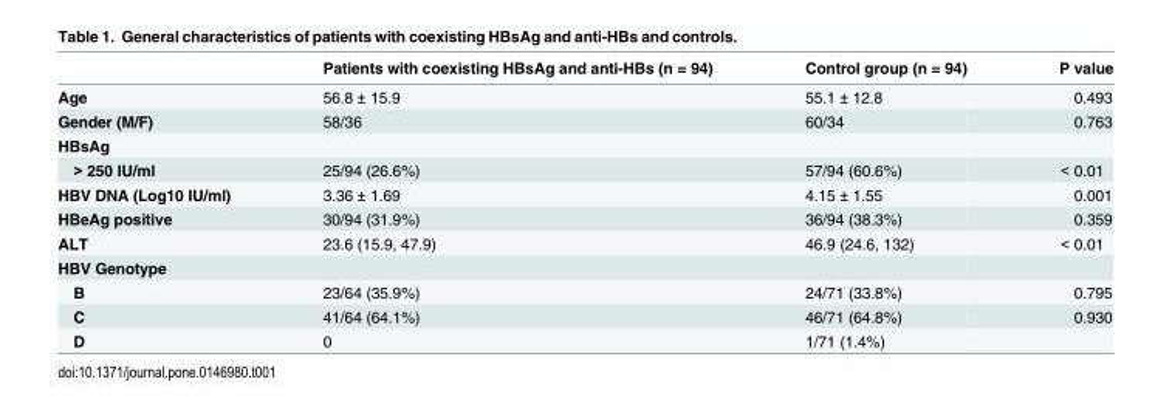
<table><thead><tr><td></td><td>Patients with coexisting HBsAg and anti-HBs (n = 94)</td><td>Control group (n = 94)</td><td>P value</td></tr></thead><tbody><tr><td>Age</td><td>56.8 ± 15.9</td><td>55.1 ± 12.8</td><td>0.493</td></tr><tr><td>Gender (M/F)</td><td>58/36</td><td>60/34</td><td>0.763</td></tr><tr><td colspan="4">HBsAg</td></tr><tr><td>&gt; 250 IU/ml</td><td>25/94 (26.6%)</td><td>57/94 (60.6%)</td><td>&lt; 0.01</td></tr><tr><td>HBV DNA (Log10 IU/ml)</td><td>3.36 ± 1.69</td><td>4.15 ± 1.55</td><td>0.001</td></tr><tr><td>HBeAg positive</td><td>30/94 (31.9%)</td><td>36/94 (38.3%)</td><td>0.359</td></tr><tr><td>ALT</td><td>23.6 (15.9, 47.9)</td><td>46.9 (24.6, 132)</td><td>&lt; 0.01</td></tr><tr><td colspan="4">HBV Genotype</td></tr><tr><td>B</td><td>23/64 (35.9%)</td><td>24/71 (33.8%)</td><td>0.795</td></tr><tr><td>C</td><td>41/64 (64.1%)</td><td>46/71 (64.8%)</td><td>0.930</td></tr><tr><td>D</td><td>0</td><td>1/71 (1.4%)</td><td></td></tr></tbody></table>